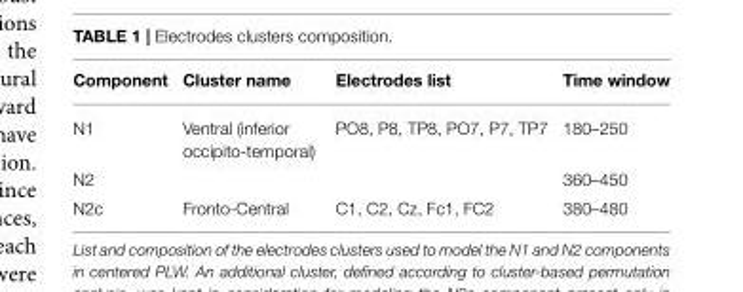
<table><thead><tr><td>Component</td><td>Cluster name</td><td>Electrodes list</td><td>Time window</td></tr></thead><tbody><tr><td>N1</td><td>Ventral (inferior occipito-temporal)</td><td>PO8, P8, TP8, PO7, P7, TP7</td><td>180–250</td></tr><tr><td>N2</td><td></td><td></td><td>360–450</td></tr><tr><td>N2c</td><td>Fronto-Central</td><td>C1, C2, Cz, Fc1, FC2</td><td>380–480</td></tr></tbody></table>